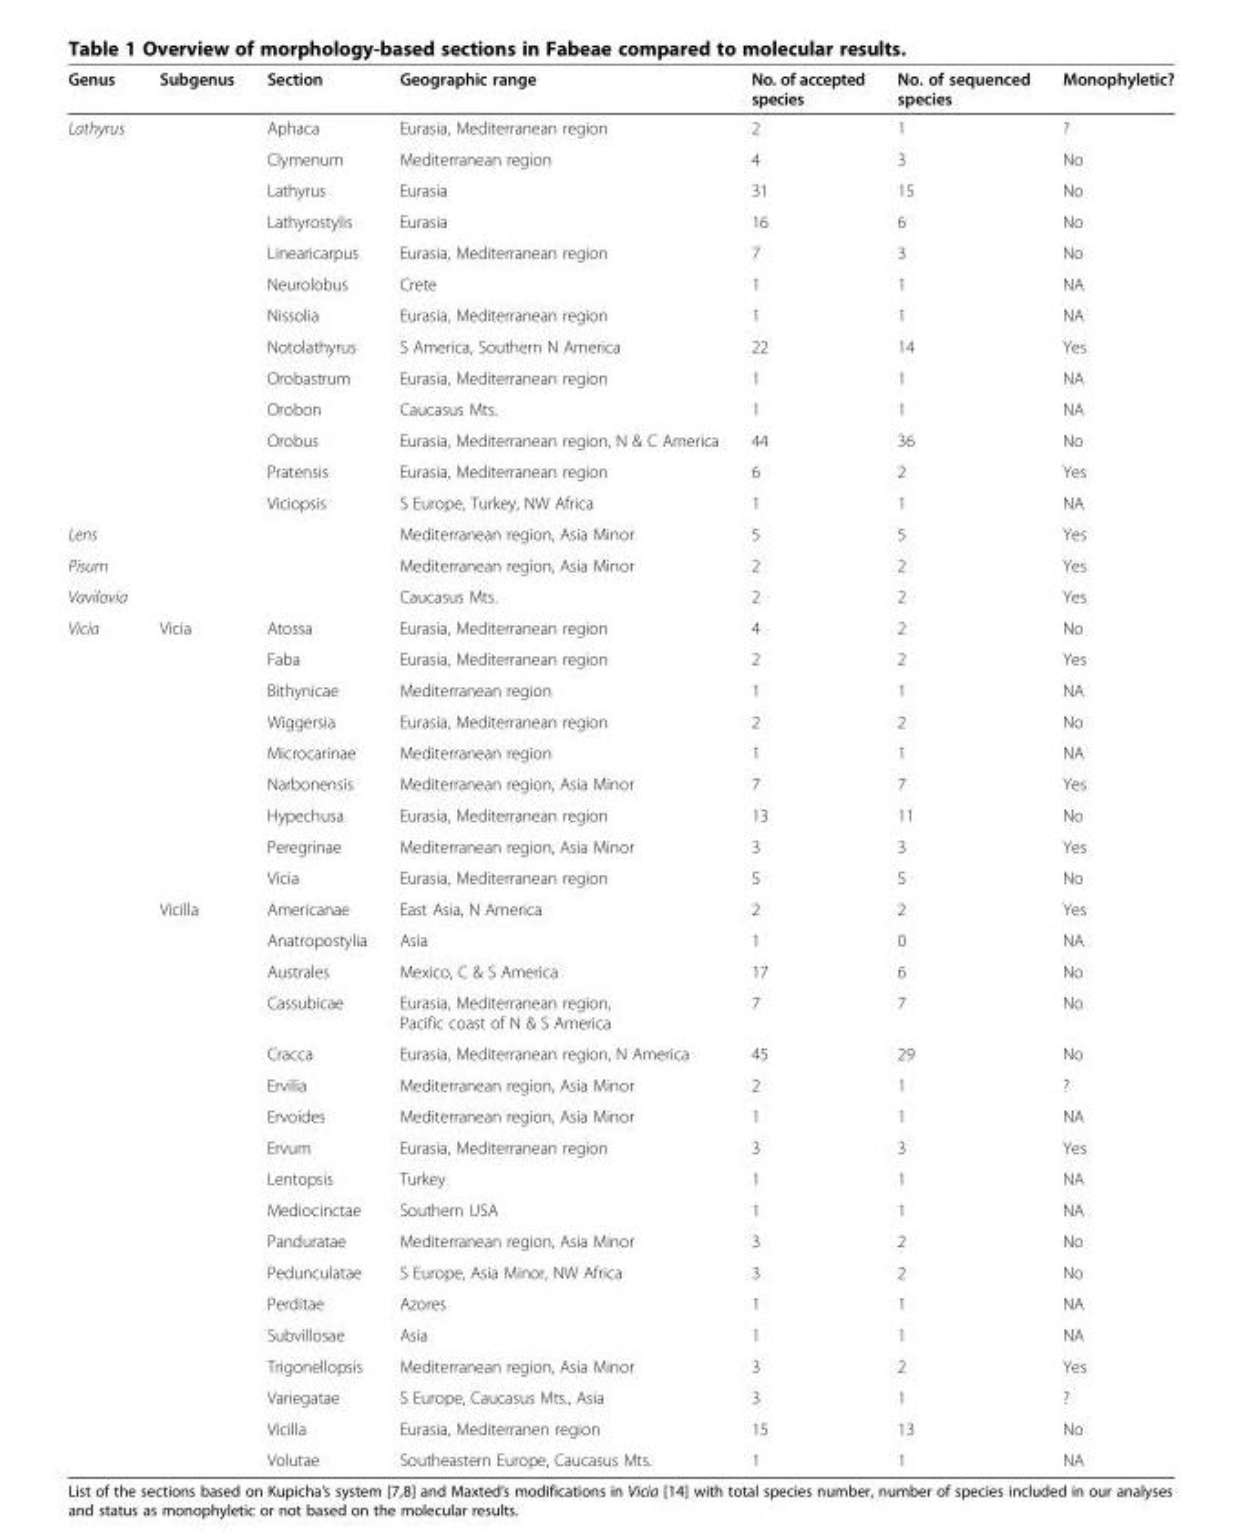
<table><thead><tr><td>Genus</td><td>Subgenus</td><td>Section</td><td>Geographic range</td><td>No. of accepted species</td><td>No. of sequenced species</td><td>Monophyletic?</td></tr></thead><tbody><tr><td rowspan="13">Lathyrus</td><td></td><td>Aphaca</td><td>Eurasia, Mediterranean region</td><td>2</td><td>1</td><td>?</td></tr><tr><td></td><td>Clymenum</td><td>Mediterranean region</td><td>4</td><td>3</td><td>No</td></tr><tr><td></td><td>Lathyrus</td><td>Eurasia</td><td>31</td><td>15</td><td>No</td></tr><tr><td></td><td>Lathyrostylis</td><td>Eurasia</td><td>16</td><td>6</td><td>No</td></tr><tr><td></td><td>Linearicarpus</td><td>Eurasia, Mediterranean region</td><td>7</td><td>3</td><td>No</td></tr><tr><td></td><td>Neurolobus</td><td>Crete</td><td>1</td><td>1</td><td>NA</td></tr><tr><td></td><td>Nissolia</td><td>Eurasia, Mediterranean region</td><td>1</td><td>1</td><td>NA</td></tr><tr><td></td><td>Notolathyrus</td><td>S America, Southern N America</td><td>22</td><td>14</td><td>Yes</td></tr><tr><td></td><td>Orobastrum</td><td>Eurasia, Mediterranean region</td><td>1</td><td>1</td><td>NA</td></tr><tr><td></td><td>Orobon</td><td>Caucasus Mts.</td><td>1</td><td>1</td><td>NA</td></tr><tr><td></td><td>Orobus</td><td>Eurasia, Mediterranean region, N &amp; C America</td><td>44</td><td>36</td><td>No</td></tr><tr><td></td><td>Pratensis</td><td>Eurasia, Mediterranean region</td><td>6</td><td>2</td><td>Yes</td></tr><tr><td></td><td>Viciopsis</td><td>S Europe, Turkey, NW Africa</td><td>1</td><td>1</td><td>NA</td></tr><tr><td>Lens</td><td></td><td></td><td>Mediterranean region, Asia Minor</td><td>5</td><td>5</td><td>Yes</td></tr><tr><td>Pisum</td><td></td><td></td><td>Mediterranean region, Asia Minor</td><td>2</td><td>2</td><td>Yes</td></tr><tr><td>Vavilovia</td><td></td><td></td><td>Caucasus Mts.</td><td>2</td><td>2</td><td>Yes</td></tr><tr><td rowspan="27">Vicia</td><td>Vicia</td><td>Atossa</td><td>Eurasia, Mediterranean region</td><td>4</td><td>2</td><td>No</td></tr><tr><td></td><td>Faba</td><td>Eurasia, Mediterranean region</td><td>2</td><td>2</td><td>Yes</td></tr><tr><td></td><td>Bithynicae</td><td>Mediterranean region</td><td>1</td><td>1</td><td>NA</td></tr><tr><td></td><td>Wiggersia</td><td>Eurasia, Mediterranean region</td><td>2</td><td>2</td><td>No</td></tr><tr><td></td><td>Microcarinae</td><td>Mediterranean region</td><td>1</td><td>1</td><td>NA</td></tr><tr><td></td><td>Narbonensis</td><td>Mediterranean region, Asia Minor</td><td>7</td><td>7</td><td>Yes</td></tr><tr><td></td><td>Hypechusa</td><td>Eurasia, Mediterranean region</td><td>13</td><td>11</td><td>No</td></tr><tr><td></td><td>Peregrinae</td><td>Mediterranean region, Asia Minor</td><td>3</td><td>3</td><td>Yes</td></tr><tr><td></td><td>Vicia</td><td>Eurasia, Mediterranean region</td><td>5</td><td>5</td><td>No</td></tr><tr><td>Vicilla</td><td>Americanae</td><td>East Asia, N America</td><td>2</td><td>2</td><td>Yes</td></tr><tr><td></td><td>Anatropostylia</td><td>Asia</td><td>1</td><td>0</td><td>NA</td></tr><tr><td></td><td>Australes</td><td>Mexico, C &amp; S America</td><td>17</td><td>6</td><td>No</td></tr><tr><td></td><td>Cassubicae</td><td>Eurasia, Mediterranean region, Pacific coast of N &amp; S America</td><td>7</td><td>7</td><td>No</td></tr><tr><td></td><td>Cracca</td><td>Eurasia, Mediterranean region, N America</td><td>45</td><td>29</td><td>No</td></tr><tr><td></td><td>Ervilia</td><td>Mediterranean region, Asia Minor</td><td>2</td><td>1</td><td>?</td></tr><tr><td></td><td>Ervoides</td><td>Mediterranean region, Asia Minor</td><td>1</td><td>1</td><td>NA</td></tr><tr><td></td><td>Ervum</td><td>Eurasia, Mediterranean region</td><td>3</td><td>3</td><td>Yes</td></tr><tr><td></td><td>Lentopsis</td><td>Turkey</td><td>1</td><td>1</td><td>NA</td></tr><tr><td></td><td>Mediocinctae</td><td>Southern USA</td><td>1</td><td>1</td><td>NA</td></tr><tr><td></td><td>Panduratae</td><td>Mediterranean region, Asia Minor</td><td>3</td><td>2</td><td>No</td></tr><tr><td></td><td>Pedunculatae</td><td>S Europe, Asia Minor, NW Africa</td><td>3</td><td>2</td><td>No</td></tr><tr><td></td><td>Perditae</td><td>Azores</td><td>1</td><td>1</td><td>NA</td></tr><tr><td></td><td>Subvillosae</td><td>Asia</td><td>1</td><td>1</td><td>NA</td></tr><tr><td></td><td>Trigonellopsis</td><td>Mediterranean region, Asia Minor</td><td>3</td><td>2</td><td>Yes</td></tr><tr><td></td><td>Variegatae</td><td>S Europe, Caucasus Mts., Asia</td><td>3</td><td>1</td><td>?</td></tr><tr><td></td><td>Vicilla</td><td>Eurasia, Mediterranen region</td><td>15</td><td>13</td><td>No</td></tr><tr><td></td><td>Volutae</td><td>Southeastern Europe, Caucasus Mts.</td><td>1</td><td>1</td><td>NA</td></tr></tbody></table>